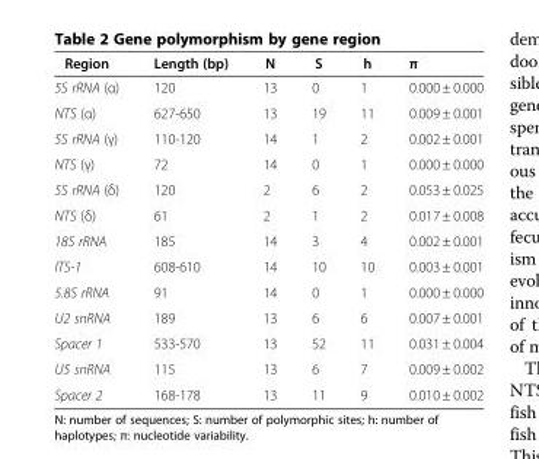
<table><thead><tr><td>Region</td><td>Length (bp)</td><td>N</td><td>S</td><td>h</td><td>π</td></tr></thead><tbody><tr><td>5S rRNA (α)</td><td>120</td><td>13</td><td>0</td><td>1</td><td>0.000 ± 0.000</td></tr><tr><td>NTS (α)</td><td>627-650</td><td>13</td><td>19</td><td>11</td><td>0.009 ± 0.001</td></tr><tr><td>5S rRNA (γ)</td><td>110-120</td><td>14</td><td>1</td><td>2</td><td>0.002 ± 0.001</td></tr><tr><td>NTS (γ)</td><td>72</td><td>14</td><td>0</td><td>1</td><td>0.000 ± 0.000</td></tr><tr><td>5S rRNA (δ)</td><td>120</td><td>2</td><td>6</td><td>2</td><td>0.053 ± 0.025</td></tr><tr><td>NTS (δ)</td><td>61</td><td>2</td><td>1</td><td>2</td><td>0.017 ± 0.008</td></tr><tr><td>18S rRNA</td><td>185</td><td>14</td><td>3</td><td>4</td><td>0.002 ± 0.001</td></tr><tr><td>ITS-1</td><td>608-610</td><td>14</td><td>10</td><td>10</td><td>0.003 ± 0.001</td></tr><tr><td>5.8S rRNA</td><td>91</td><td>14</td><td>0</td><td>1</td><td>0.000 ± 0.000</td></tr><tr><td>U2 snRNA</td><td>189</td><td>13</td><td>6</td><td>6</td><td>0.007 ± 0.001</td></tr><tr><td>Spacer 1</td><td>533-570</td><td>13</td><td>52</td><td>11</td><td>0.031 ± 0.004</td></tr><tr><td>U5 snRNA</td><td>115</td><td>13</td><td>6</td><td>7</td><td>0.009 ± 0.002</td></tr><tr><td>Spacer 2</td><td>168-178</td><td>13</td><td>11</td><td>9</td><td>0.010 ± 0.002</td></tr></tbody></table>